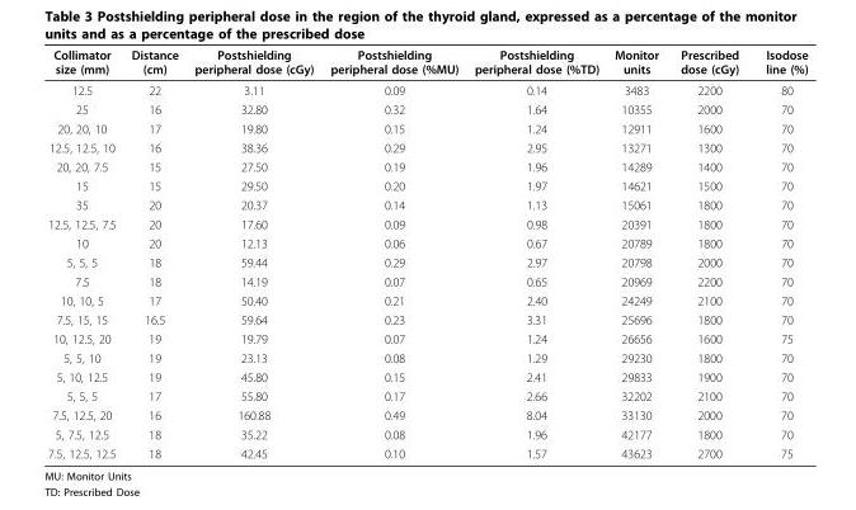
<table><thead><tr><td>Collimator size (mm)</td><td>Distance (cm)</td><td>Postshielding peripheral dose (cGy)</td><td>Postshielding peripheral dose (%MU)</td><td>Postshielding peripheral dose (%TD)</td><td>Monitor units</td><td>Prescribed dose (cGy)</td><td>Isodose line (%)</td></tr></thead><tbody><tr><td>12.5</td><td>22</td><td>3.11</td><td>0.09</td><td>0.14</td><td>3483</td><td>2200</td><td>80</td></tr><tr><td>25</td><td>16</td><td>32.80</td><td>0.32</td><td>1.64</td><td>10355</td><td>2000</td><td>70</td></tr><tr><td>20, 20, 10</td><td>17</td><td>19.80</td><td>0.15</td><td>1.24</td><td>12911</td><td>1600</td><td>70</td></tr><tr><td>12.5, 12.5, 10</td><td>16</td><td>38.36</td><td>0.29</td><td>2.95</td><td>13271</td><td>1300</td><td>70</td></tr><tr><td>20, 20, 7.5</td><td>15</td><td>27.50</td><td>0.19</td><td>1.96</td><td>14289</td><td>1400</td><td>70</td></tr><tr><td>15</td><td>15</td><td>29.50</td><td>0.20</td><td>1.97</td><td>14621</td><td>1500</td><td>70</td></tr><tr><td>35</td><td>20</td><td>20.37</td><td>0.14</td><td>1.13</td><td>15061</td><td>1800</td><td>70</td></tr><tr><td>12.5, 12.5, 7.5</td><td>20</td><td>17.60</td><td>0.09</td><td>0.98</td><td>20391</td><td>1800</td><td>70</td></tr><tr><td>10</td><td>20</td><td>12.13</td><td>0.06</td><td>0.67</td><td>20789</td><td>1800</td><td>70</td></tr><tr><td>5, 5, 5</td><td>18</td><td>59.44</td><td>0.29</td><td>2.97</td><td>20798</td><td>2000</td><td>70</td></tr><tr><td>7.5</td><td>18</td><td>14.19</td><td>0.07</td><td>0.65</td><td>20969</td><td>2200</td><td>70</td></tr><tr><td>10, 10, 5</td><td>17</td><td>50.40</td><td>0.21</td><td>2.40</td><td>24249</td><td>2100</td><td>70</td></tr><tr><td>7.5, 15, 15</td><td>16.5</td><td>59.64</td><td>0.23</td><td>3.31</td><td>25696</td><td>1800</td><td>70</td></tr><tr><td>10, 12.5, 20</td><td>19</td><td>19.79</td><td>0.07</td><td>1.24</td><td>26656</td><td>1600</td><td>75</td></tr><tr><td>5, 5, 10</td><td>19</td><td>23.13</td><td>0.08</td><td>1.29</td><td>29230</td><td>1800</td><td>70</td></tr><tr><td>5, 10, 12.5</td><td>19</td><td>45.80</td><td>0.15</td><td>2.41</td><td>29833</td><td>1900</td><td>70</td></tr><tr><td>5, 5, 5</td><td>17</td><td>55.80</td><td>0.17</td><td>2.66</td><td>32202</td><td>2100</td><td>70</td></tr><tr><td>7.5, 12.5, 20</td><td>16</td><td>160.88</td><td>0.49</td><td>8.04</td><td>33130</td><td>2000</td><td>70</td></tr><tr><td>5, 7.5, 12.5</td><td>18</td><td>35.22</td><td>0.08</td><td>1.96</td><td>42177</td><td>1800</td><td>70</td></tr><tr><td>7.5, 12.5, 12.5</td><td>18</td><td>42.45</td><td>0.10</td><td>1.57</td><td>43623</td><td>2700</td><td>75</td></tr></tbody></table>